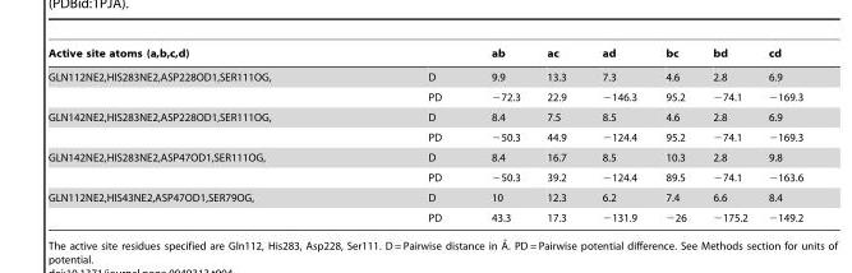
<table><thead><tr><td>Active site atoms (a,b,c,d)</td><td></td><td>ab</td><td>ac</td><td>ad</td><td>bc</td><td>bd</td><td>cd</td></tr></thead><tbody><tr><td rowspan="2">GLN112NE2,HIS283NE2,ASP228OD1,SER111OG,</td><td>D</td><td>9.9</td><td>13.3</td><td>7.3</td><td>4.6</td><td>2.8</td><td>6.9</td></tr><tr><td>PD</td><td>−72.3</td><td>22.9</td><td>−146.3</td><td>95.2</td><td>−74.1</td><td>−169.3</td></tr><tr><td rowspan="2">GLN142NE2,HIS283NE2,ASP228OD1,SER111OG,</td><td>D</td><td>8.4</td><td>7.5</td><td>8.5</td><td>4.6</td><td>2.8</td><td>6.9</td></tr><tr><td>PD</td><td>−50.3</td><td>44.9</td><td>−124.4</td><td>95.2</td><td>−74.1</td><td>−169.3</td></tr><tr><td rowspan="2">GLN142NE2,HIS283NE2,ASP47OD1,SER111OG,</td><td>D</td><td>8.4</td><td>16.7</td><td>8.5</td><td>10.3</td><td>2.8</td><td>9.8</td></tr><tr><td>PD</td><td>−50.3</td><td>39.2</td><td>−124.4</td><td>89.5</td><td>−74.1</td><td>−163.6</td></tr><tr><td rowspan="2">GLN112NE2,HIS43NE2,ASP47OD1,SER79OG,</td><td>D</td><td>10</td><td>12.3</td><td>6.2</td><td>7.4</td><td>6.6</td><td>8.4</td></tr><tr><td>PD</td><td>43.3</td><td>17.3</td><td>−131.9</td><td>−26</td><td>−175.2</td><td>−149.2</td></tr></tbody></table>